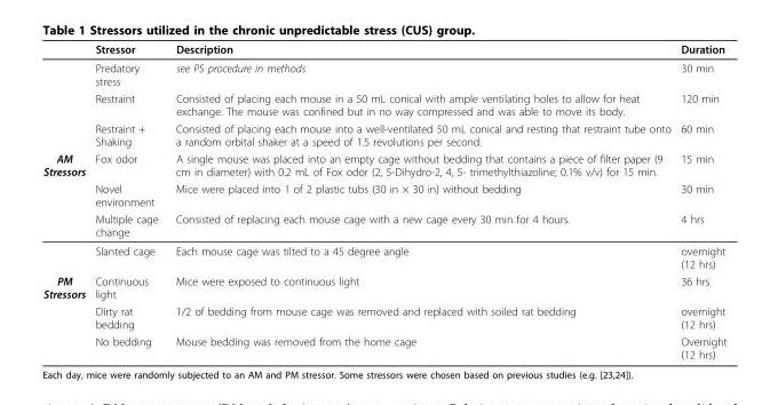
<table><thead><tr><td></td><td>Stressor</td><td>Description</td><td>Duration</td></tr></thead><tbody><tr><td></td><td>Predatory stress</td><td>see PS procedure in methods</td><td>30 min</td></tr><tr><td></td><td>Restraint</td><td>Consisted of placing each mouse in a 50 mL conical with ample ventilating holes to allow for heat exchange. The mouse was confined but in no way compressed and was able to move its body.</td><td>120 min</td></tr><tr><td></td><td>Restraint + Shaking</td><td>Consisted of placing each mouse into a well-ventilated 50 mL conical and resting that restraint tube onto a random orbital shaker at a speed of 1.5 revolutions per second.</td><td>60 min</td></tr><tr><td rowspan="4">AM Stressors</td><td>Fox odor</td><td>A single mouse was placed into an empty cage without bedding that contains a piece of filter paper (9 cm in diameter) with 0.2 mL of Fox odor (2, 5-Dihydro-2, 4, 5- trimethylthiazoline; 0.1% v/v) for 15 min.</td><td>15 min</td></tr><tr><td>Novel environment</td><td>Mice were placed into 1 of 2 plastic tubs (30 in × 30 in) without bedding</td><td>30 min</td></tr><tr><td>Multiple cage change</td><td>Consisted of replacing each mouse cage with a new cage every 30 min for 4 hours.</td><td>4 hrs</td></tr><tr><td>Slanted cage</td><td>Each mouse cage was tilted to a 45 degree angle</td><td>overnight (12 hrs)</td></tr><tr><td rowspan="3">PM Stressors</td><td>Continuous light</td><td>Mice were exposed to continuous light</td><td>36 hrs</td></tr><tr><td>Dirty rat bedding</td><td>1/2 of bedding from mouse cage was removed and replaced with soiled rat bedding</td><td>overnight (12 hrs)</td></tr><tr><td>No bedding</td><td>Mouse bedding was removed from the home cage</td><td>Overnight (12 hrs)</td></tr></tbody></table>